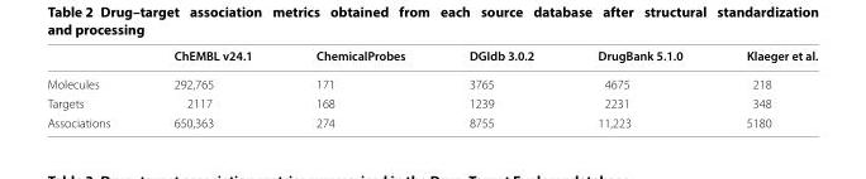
<table><thead><tr><td></td><td>ChEMBL v24.1</td><td>ChemicalProbes</td><td>DGIdb 3.0.2</td><td>DrugBank 5.1.0</td><td>Klaeger et al.</td></tr></thead><tbody><tr><td>Molecules</td><td>292,765</td><td>171</td><td>3765</td><td>4675</td><td>218</td></tr><tr><td>Targets</td><td>2117</td><td>168</td><td>1239</td><td>2231</td><td>348</td></tr><tr><td>Associations</td><td>650,363</td><td>274</td><td>8755</td><td>11,223</td><td>5180</td></tr></tbody></table>